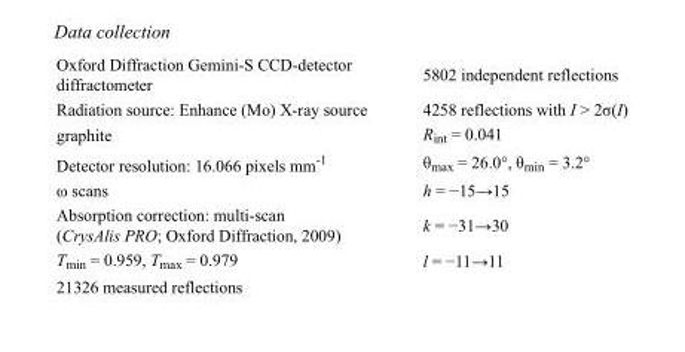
<table><tbody><tr><td>Oxford Diffraction Gemini-S CCD-detector diffractometer</td><td>5802 independent reflections</td></tr><tr><td>Radiation source: Enhance (Mo) X-ray source</td><td>4258 reflections with I &gt; 2σ(I)</td></tr><tr><td>graphite</td><td>R<sub>int</sub> = 0.041</td></tr><tr><td>Detector resolution: 16.066 pixels mm<sup>-1</sup></td><td>θ<sub>max</sub> = 26.0°, θ<sub>min</sub> = 3.2°</td></tr><tr><td>ω scans</td><td>h = −15→15</td></tr><tr><td>Absorption correction: multi-scan (CrysAlis PRO; Oxford Diffraction, 2009)</td><td>k = −31→30</td></tr><tr><td>T<sub>min</sub> = 0.959, T<sub>max</sub> = 0.979</td><td>l = −11→11</td></tr><tr><td>21326 measured reflections</td><td></td></tr></tbody></table>